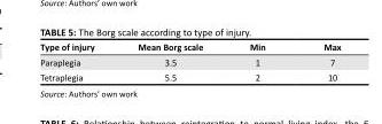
<table><thead><tr><td>Type of injury</td><td>Mean Borg scale</td><td>Min</td><td>Max</td></tr></thead><tbody><tr><td>Paraplegia</td><td>3.5</td><td>1</td><td>7</td></tr><tr><td>Tetraplegia</td><td>5.5</td><td>2</td><td>10</td></tr></tbody></table>